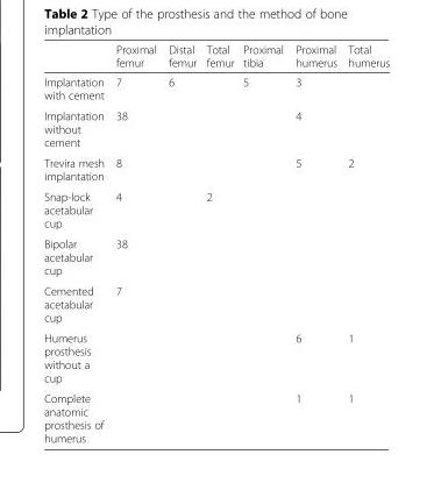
<table><thead><tr><td></td><td>Proximal femur</td><td>Distal femur</td><td>Total femur</td><td>Proximal tibia</td><td>Proximal humerus</td><td>Total humerus</td></tr></thead><tbody><tr><td>Implantation with cement</td><td>7</td><td>6</td><td></td><td>5</td><td>3</td><td></td></tr><tr><td>Implantation without cement</td><td>38</td><td></td><td></td><td></td><td>4</td><td></td></tr><tr><td>Trevira mesh implantation</td><td>8</td><td></td><td></td><td></td><td>5</td><td>2</td></tr><tr><td>Snap-lock acetabular cup</td><td>4</td><td></td><td>2</td><td></td><td></td><td></td></tr><tr><td>Bipolar acetabular cup</td><td>38</td><td></td><td></td><td></td><td></td><td></td></tr><tr><td>Cemented acetabular cup</td><td>7</td><td></td><td></td><td></td><td></td><td></td></tr><tr><td>Humerus prosthesis without a cup</td><td></td><td></td><td></td><td></td><td>6</td><td>1</td></tr><tr><td>Complete anatomic prosthesis of humerus</td><td></td><td></td><td></td><td></td><td>1</td><td>1</td></tr></tbody></table>